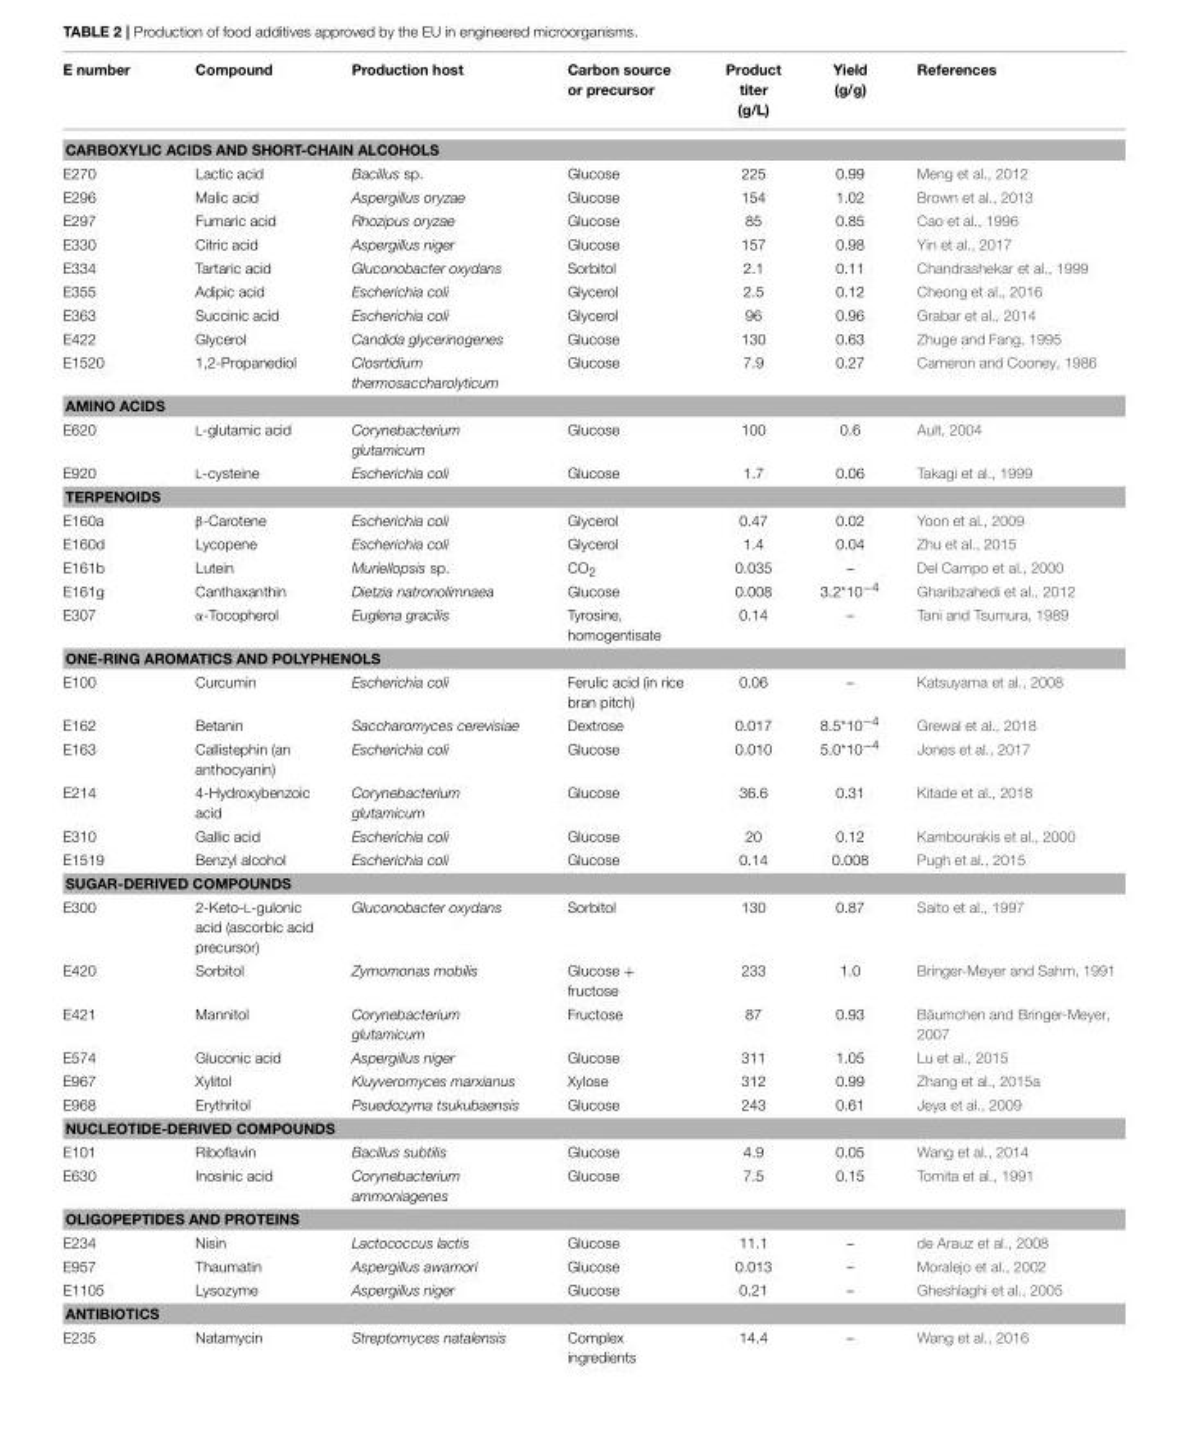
<table><thead><tr><td>E number</td><td>Compound</td><td>Production host</td><td>Carbon source or precursor</td><td>Product titer (g/L)</td><td>Yield (g/g)</td><td>References</td></tr></thead><tbody><tr><td colspan="7">CARBOXYLIC ACIDS AND SHORT-CHAIN ALCOHOLS</td></tr><tr><td>E270</td><td>Lactic acid</td><td>Bacillus sp.</td><td>Glucose</td><td>225</td><td>0.99</td><td>Meng et al., 2012</td></tr><tr><td>E296</td><td>Malic acid</td><td>Aspergillus oryzae</td><td>Glucose</td><td>154</td><td>1.02</td><td>Brown et al., 2013</td></tr><tr><td>E297</td><td>Fumaric acid</td><td>Rhozipus oryzae</td><td>Glucose</td><td>85</td><td>0.85</td><td>Cao et al., 1996</td></tr><tr><td>E330</td><td>Citric acid</td><td>Aspergillus niger</td><td>Glucose</td><td>157</td><td>0.98</td><td>Yin et al., 2017</td></tr><tr><td>E334</td><td>Tartaric acid</td><td>Gluconobacter oxydans</td><td>Sorbitol</td><td>2.1</td><td>0.11</td><td>Chandrashekar et al., 1999</td></tr><tr><td>E355</td><td>Adipic acid</td><td>Escherichia coli</td><td>Glycerol</td><td>2.5</td><td>0.12</td><td>Cheong et al., 2016</td></tr><tr><td>E363</td><td>Succinic acid</td><td>Escherichia coli</td><td>Glycerol</td><td>96</td><td>0.96</td><td>Grabar et al., 2014</td></tr><tr><td>E422</td><td>Glycerol</td><td>Candida glycerinogenes</td><td>Glucose</td><td>130</td><td>0.63</td><td>Zhuge and Fang, 1995</td></tr><tr><td>E1520</td><td>1,2-Propanediol</td><td>Closrtidium thermosaccharolyticum</td><td>Glucose</td><td>7.9</td><td>0.27</td><td>Cameron and Cooney, 1986</td></tr><tr><td colspan="7">AMINO ACIDS</td></tr><tr><td>E620</td><td>L-glutamic acid</td><td>Corynebacterium glutamicum</td><td>Glucose</td><td>100</td><td>0.6</td><td>Ault, 2004</td></tr><tr><td>E920</td><td>L-cysteine</td><td>Escherichia coli</td><td>Glucose</td><td>1.7</td><td>0.06</td><td>Takagi et al., 1999</td></tr><tr><td colspan="7">TERPENOIDS</td></tr><tr><td>E160a</td><td>β-Carotene</td><td>Escherichia coli</td><td>Glycerol</td><td>0.47</td><td>0.02</td><td>Yoon et al., 2009</td></tr><tr><td>E160d</td><td>Lycopene</td><td>Escherichia coli</td><td>Glycerol</td><td>1.4</td><td>0.04</td><td>Zhu et al., 2015</td></tr><tr><td>E161b</td><td>Lutein</td><td>Muriellopsis sp.</td><td>CO<sub>2</sub></td><td>0.035</td><td>–</td><td>Del Campo et al., 2000</td></tr><tr><td>E161g</td><td>Canthaxanthin</td><td>Dietzia natronolimnaea</td><td>Glucose</td><td>0.008</td><td>3.2*10<sup>−4</sup></td><td>Gharibzahedi et al., 2012</td></tr><tr><td>E307</td><td>α-Tocopherol</td><td>Euglena gracilis</td><td>Tyrosine, homogentisate</td><td>0.14</td><td>–</td><td>Tani and Tsumura, 1989</td></tr><tr><td colspan="7">ONE-RING AROMATICS AND POLYPHENOLS</td></tr><tr><td>E100</td><td>Curcumin</td><td>Escherichia coli</td><td>Ferulic acid (in rice bran pitch)</td><td>0.06</td><td>–</td><td>Katsuyama et al., 2008</td></tr><tr><td>E162</td><td>Betanin</td><td>Saccharomyces cerevisiae</td><td>Dextrose</td><td>0.017</td><td>8.5*10<sup>−4</sup></td><td>Grewal et al., 2018</td></tr><tr><td>E163</td><td>Callistephin (an anthocyanin)</td><td>Escherichia coli</td><td>Glucose</td><td>0.010</td><td>5.0*10<sup>−4</sup></td><td>Jones et al., 2017</td></tr><tr><td>E214</td><td>4-Hydroxybenzoic acid</td><td>Corynebacterium glutamicum</td><td>Glucose</td><td>36.6</td><td>0.31</td><td>Kitade et al., 2018</td></tr><tr><td>E310</td><td>Gallic acid</td><td>Escherichia coli</td><td>Glucose</td><td>20</td><td>0.12</td><td>Kambourakis et al., 2000</td></tr><tr><td>E1519</td><td>Benzyl alcohol</td><td>Escherichia coli</td><td>Glucose</td><td>0.14</td><td>0.008</td><td>Pugh et al., 2015</td></tr><tr><td colspan="7">SUGAR-DERIVED COMPOUNDS</td></tr><tr><td>E300</td><td>2-Keto-L-gulonic acid (ascorbic acid precursor)</td><td>Gluconobacter oxydans</td><td>Sorbitol</td><td>130</td><td>0.87</td><td>Saito et al., 1997</td></tr><tr><td>E420</td><td>Sorbitol</td><td>Zymomonas mobilis</td><td>Glucose + fructose</td><td>233</td><td>1.0</td><td>Bringer-Meyer and Sahm, 1991</td></tr><tr><td>E421</td><td>Mannitol</td><td>Corynebacterium glutamicum</td><td>Fructose</td><td>87</td><td>0.93</td><td>Bäumchen and Bringer-Meyer, 2007</td></tr><tr><td>E574</td><td>Gluconic acid</td><td>Aspergillus niger</td><td>Glucose</td><td>311</td><td>1.05</td><td>Lu et al., 2015</td></tr><tr><td>E967</td><td>Xylitol</td><td>Kluyveromyces marxianus</td><td>Xylose</td><td>312</td><td>0.99</td><td>Zhang et al., 2015a</td></tr><tr><td>E968</td><td>Erythritol</td><td>Psuedozyma tsukubaensis</td><td>Glucose</td><td>243</td><td>0.61</td><td>Jeya et al., 2009</td></tr><tr><td colspan="7">NUCLEOTIDE-DERIVED COMPOUNDS</td></tr><tr><td>E101</td><td>Riboflavin</td><td>Bacillus subtilis</td><td>Glucose</td><td>4.9</td><td>0.05</td><td>Wang et al., 2014</td></tr><tr><td>E630</td><td>Inosinic acid</td><td>Corynebacterium ammoniagenes</td><td>Glucose</td><td>7.5</td><td>0.15</td><td>Tomita et al., 1991</td></tr><tr><td colspan="7">OLIGOPEPTIDES AND PROTEINS</td></tr><tr><td>E234</td><td>Nisin</td><td>Lactococcus lactis</td><td>Glucose</td><td>11.1</td><td>–</td><td>de Arauz et al., 2008</td></tr><tr><td>E957</td><td>Thaumatin</td><td>Aspergillus awamori</td><td>Glucose</td><td>0.013</td><td>–</td><td>Moralejo et al., 2002</td></tr><tr><td>E1105</td><td>Lysozyme</td><td>Aspergillus niger</td><td>Glucose</td><td>0.21</td><td>–</td><td>Gheshlaghi et al., 2005</td></tr><tr><td colspan="7">ANTIBIOTICS</td></tr><tr><td>E235</td><td>Natamycin</td><td>Streptomyces natalensis</td><td>Complex ingredients</td><td>14.4</td><td>–</td><td>Wang et al., 2016</td></tr></tbody></table>